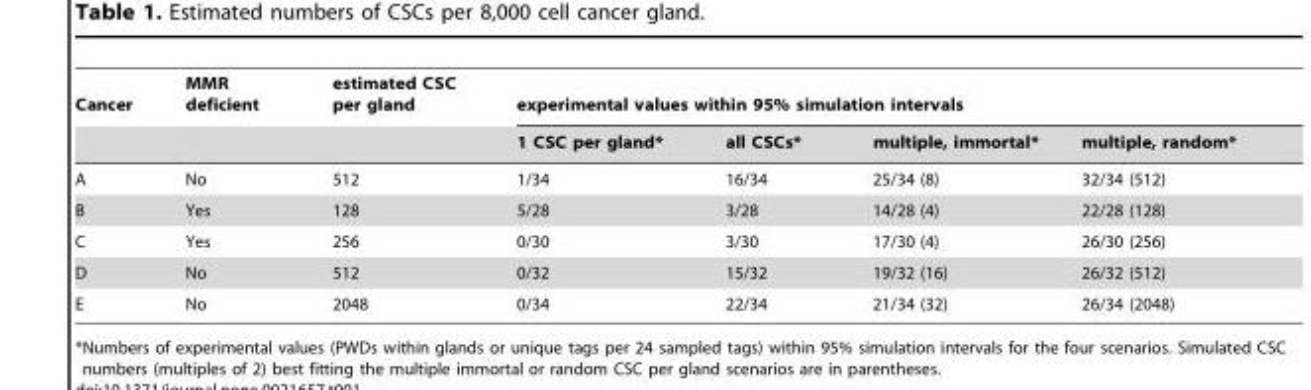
<table><thead><tr><td rowspan="2">Cancer</td><td rowspan="2">MMR deficient</td><td rowspan="2">estimated CSC per gland</td><td colspan="4">experimental values within 95% simulation intervals</td></tr><tr><td>1 CSC per gland*</td><td>all CSCs*</td><td>multiple, immortal*</td><td>multiple, random*</td></tr></thead><tbody><tr><td>A</td><td>No</td><td>512</td><td>1/34</td><td>16/34</td><td>25/34 (8)</td><td>32/34 (512)</td></tr><tr><td>B</td><td>Yes</td><td>128</td><td>5/28</td><td>3/28</td><td>14/28 (4)</td><td>22/28 (128)</td></tr><tr><td>C</td><td>Yes</td><td>256</td><td>0/30</td><td>3/30</td><td>17/30 (4)</td><td>26/30 (256)</td></tr><tr><td>D</td><td>No</td><td>512</td><td>0/32</td><td>15/32</td><td>19/32 (16)</td><td>26/32 (512)</td></tr><tr><td>E</td><td>No</td><td>2048</td><td>0/34</td><td>22/34</td><td>21/34 (32)</td><td>26/34 (2048)</td></tr></tbody></table>